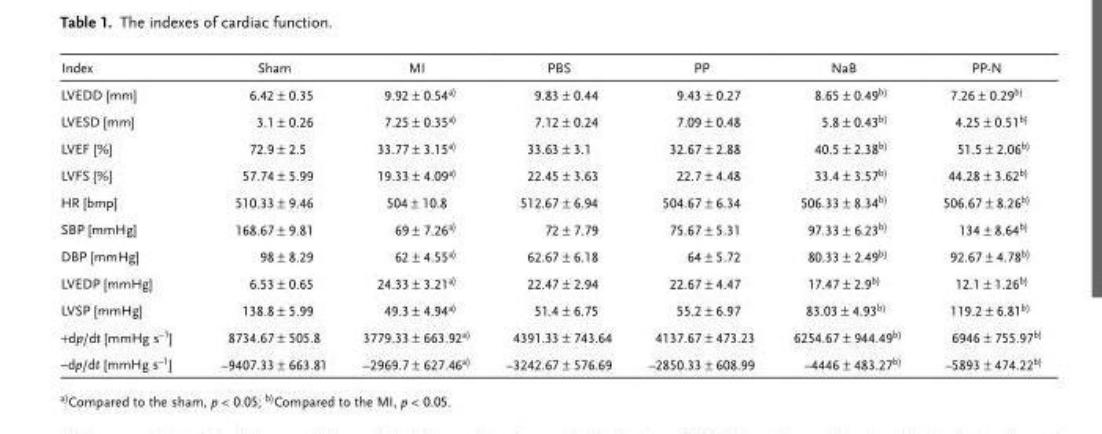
<table><thead><tr><td>Index</td><td>Sham</td><td>MI</td><td>PBS</td><td>PP</td><td>NaB</td><td>PP-N</td></tr></thead><tbody><tr><td>LVEDD [mm]</td><td>6.42 ± 0.35</td><td>9.92 ± 0.54a)</td><td>9.83 ± 0.44</td><td>9.43 ± 0.27</td><td>8.65 ± 0.49b)</td><td>7.26 ± 0.29b)</td></tr><tr><td>LVESD [mm]</td><td>3.1 ± 0.26</td><td>7.25 ± 0.35a)</td><td>7.12 ± 0.24</td><td>7.09 ± 0.48</td><td>5.8 ± 0.43b)</td><td>4.25 ± 0.51b)</td></tr><tr><td>LVEF [%]</td><td>72.9 ± 2.5</td><td>33.77 ± 3.15a)</td><td>33.63 ± 3.1</td><td>32.67 ± 2.88</td><td>40.5 ± 2.38b)</td><td>51.5 ± 2.06b)</td></tr><tr><td>LVFS [%]</td><td>57.74 ± 5.99</td><td>19.33 ± 4.09a)</td><td>22.45 ± 3.63</td><td>22.7 ± 4.48</td><td>33.4 ± 3.57b)</td><td>44.28 ± 3.62b)</td></tr><tr><td>HR [bmp]</td><td>510.33 ± 9.46</td><td>504 ± 10.8</td><td>512.67 ± 6.94</td><td>504.67 ± 6.34</td><td>506.33 ± 8.34b)</td><td>506.67 ± 8.26b)</td></tr><tr><td>SBP [mmHg]</td><td>168.67 ± 9.81</td><td>69 ± 7.26a)</td><td>72 ± 7.79</td><td>75.67 ± 5.31</td><td>97.33 ± 6.23b)</td><td>134 ± 8.64b)</td></tr><tr><td>DBP [mmHg]</td><td>98 ± 8.29</td><td>62 ± 4.55a)</td><td>62.67 ± 6.18</td><td>64 ± 5.72</td><td>80.33 ± 2.49b)</td><td>92.67 ± 4.78b)</td></tr><tr><td>LVEDP [mmHg]</td><td>6.53 ± 0.65</td><td>24.33 ± 3.21a)</td><td>22.47 ± 2.94</td><td>22.67 ± 4.47</td><td>17.47 ± 2.9b)</td><td>12.1 ± 1.26b)</td></tr><tr><td>LVSP [mmHg]</td><td>138.8 ± 5.99</td><td>49.3 ± 4.94a)</td><td>51.4 ± 6.75</td><td>55.2 ± 6.97</td><td>83.03 ± 4.93b)</td><td>119.2 ± 6.81b)</td></tr><tr><td>+dp/dt [mmHg s<sup>–1</sup>]</td><td>8734.67 ± 505.8</td><td>3779.33 ± 663.92a)</td><td>4391.33 ± 743.64</td><td>4137.67 ± 473.23</td><td>6254.67 ± 944.49b)</td><td>6946 ± 755.97b)</td></tr><tr><td>–dp/dt [mmHg s<sup>–1</sup>]</td><td>–9407.33 ± 663.81</td><td>–2969.7 ± 627.46a)</td><td>–3242.67 ± 576.69</td><td>–2850.33 ± 608.99</td><td>–4446 ± 483.27b)</td><td>–5893 ± 474.22b)</td></tr></tbody></table>